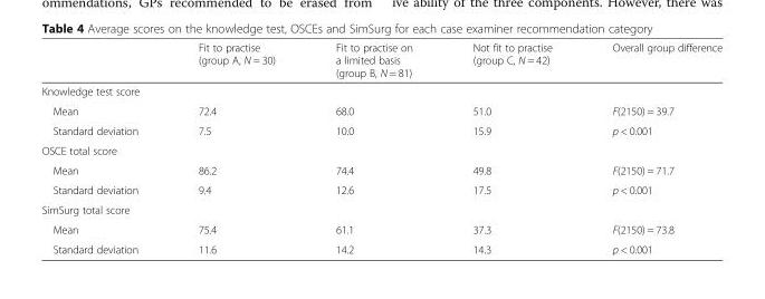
<table><thead><tr><td></td><td>Fit to practise (group A, N = 30)</td><td>Fit to practise on a limited basis (group B, N = 81)</td><td>Not fit to practise (group C, N = 42)</td><td>Overall group difference</td></tr></thead><tbody><tr><td colspan="5">Knowledge test score</td></tr><tr><td>Mean</td><td>72.4</td><td>68.0</td><td>51.0</td><td>F(2150) = 39.7</td></tr><tr><td>Standard deviation</td><td>7.5</td><td>10.0</td><td>15.9</td><td>p &lt; 0.001</td></tr><tr><td colspan="5">OSCE total score</td></tr><tr><td>Mean</td><td>86.2</td><td>74.4</td><td>49.8</td><td>F(2150) = 71.7</td></tr><tr><td>Standard deviation</td><td>9.4</td><td>12.6</td><td>17.5</td><td>p &lt; 0.001</td></tr><tr><td colspan="5">SimSurg total score</td></tr><tr><td>Mean</td><td>75.4</td><td>61.1</td><td>37.3</td><td>F(2150) = 73.8</td></tr><tr><td>Standard deviation</td><td>11.6</td><td>14.2</td><td>14.3</td><td>p &lt; 0.001</td></tr></tbody></table>